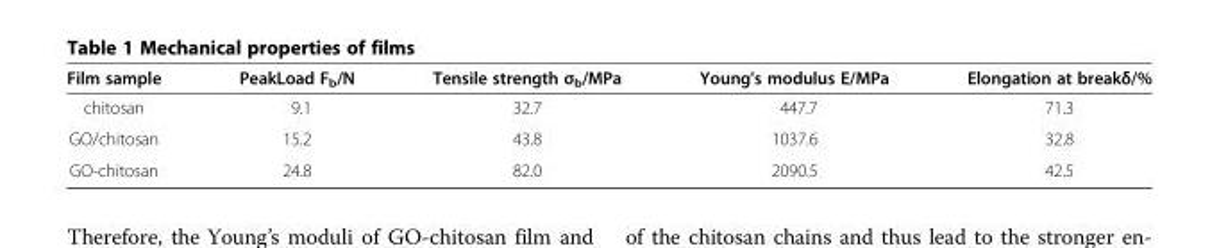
<table><thead><tr><td>Film sample</td><td>PeakLoad F<sub>b</sub>/N</td><td>Tensile strength σ<sub>b</sub>/MPa</td><td>Young&#x27;s modulus E/MPa</td><td>Elongation at breakδ/%</td></tr></thead><tbody><tr><td>chitosan</td><td>9.1</td><td>32.7</td><td>447.7</td><td>71.3</td></tr><tr><td>GO/chitosan</td><td>15.2</td><td>43.8</td><td>1037.6</td><td>32.8</td></tr><tr><td>GO-chitosan</td><td>24.8</td><td>82.0</td><td>2090.5</td><td>42.5</td></tr></tbody></table>